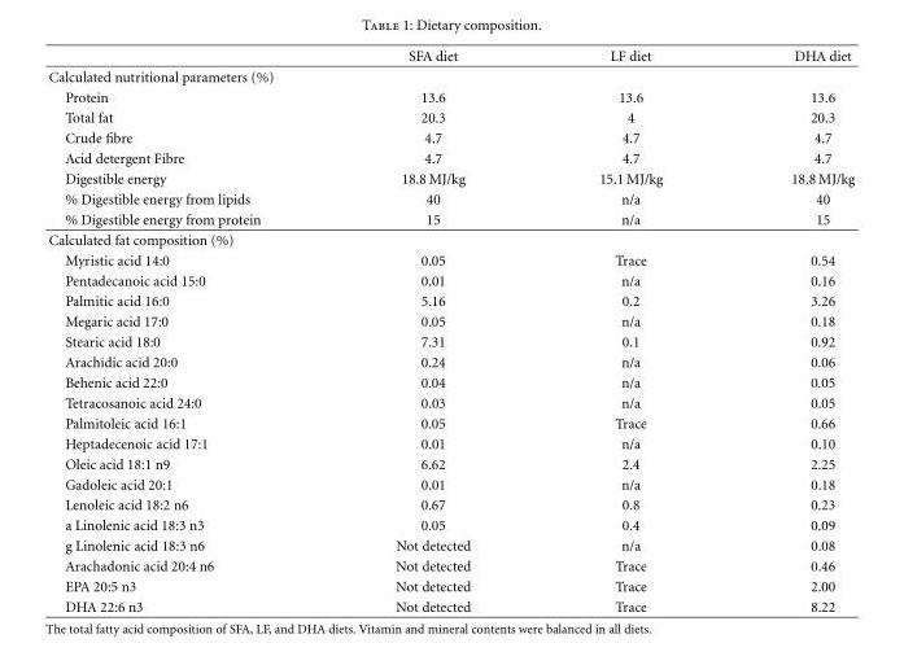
<table><thead><tr><td></td><td>SFA diet</td><td>LF diet</td><td>DHA diet</td></tr></thead><tbody><tr><td colspan="4">Calculated nutritional parameters (%)</td></tr><tr><td>Protein</td><td>13.6</td><td>13.6</td><td>13.6</td></tr><tr><td>Total fat</td><td>20.3</td><td>4</td><td>20.3</td></tr><tr><td>Crude fibre</td><td>4.7</td><td>4.7</td><td>4.7</td></tr><tr><td>Acid detergent Fibre</td><td>4.7</td><td>4.7</td><td>4.7</td></tr><tr><td>Digestible energy</td><td>18.8 MJ/kg</td><td>15.1 MJ/kg</td><td>18.8 MJ/kg</td></tr><tr><td>% Digestible energy from lipids</td><td>40</td><td>n/a</td><td>40</td></tr><tr><td>% Digestible energy from protein</td><td>15</td><td>n/a</td><td>15</td></tr><tr><td colspan="4">Calculated fat composition (%)</td></tr><tr><td>Myristic acid 14:0</td><td>0.05</td><td>Trace</td><td>0.54</td></tr><tr><td>Pentadecanoic acid 15:0</td><td>0.01</td><td>n/a</td><td>0.16</td></tr><tr><td>Palmitic acid 16:0</td><td>5.16</td><td>0.2</td><td>3.26</td></tr><tr><td>Megaric acid 17:0</td><td>0.05</td><td>n/a</td><td>0.18</td></tr><tr><td>Stearic acid 18:0</td><td>7.31</td><td>0.1</td><td>0.92</td></tr><tr><td>Arachidic acid 20:0</td><td>0.24</td><td>n/a</td><td>0.06</td></tr><tr><td>Behenic acid 22:0</td><td>0.04</td><td>n/a</td><td>0.05</td></tr><tr><td>Tetracosanoic acid 24:0</td><td>0.03</td><td>n/a</td><td>0.05</td></tr><tr><td>Palmitoleic acid 16:1</td><td>0.05</td><td>Trace</td><td>0.66</td></tr><tr><td>Heptadecenoic acid 17:1</td><td>0.01</td><td>n/a</td><td>0.10</td></tr><tr><td>Oleic acid 18:1 n9</td><td>6.62</td><td>2.4</td><td>2.25</td></tr><tr><td>Gadoleic acid 20:1</td><td>0.01</td><td>n/a</td><td>0.18</td></tr><tr><td>Lenoleic acid 18:2 n6</td><td>0.67</td><td>0.8</td><td>0.23</td></tr><tr><td>a Linolenic acid 18:3 n3</td><td>0.05</td><td>0.4</td><td>0.09</td></tr><tr><td>g Linolenic acid 18:3 n6</td><td>Not detected</td><td>n/a</td><td>0.08</td></tr><tr><td>Arachadonic acid 20:4 n6</td><td>Not detected</td><td>Trace</td><td>0.46</td></tr><tr><td>EPA 20:5 n3</td><td>Not detected</td><td>Trace</td><td>2.00</td></tr><tr><td>DHA 22:6 n3</td><td>Not detected</td><td>Trace</td><td>8.22</td></tr></tbody></table>